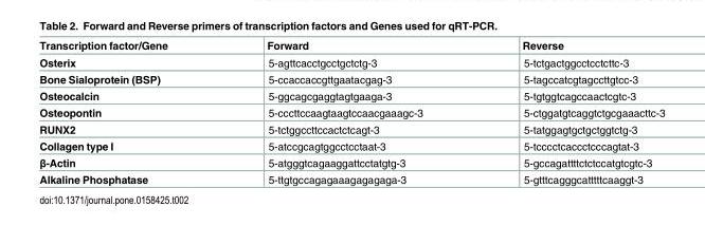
<table><thead><tr><td>Transcription factor/Gene</td><td>Forward</td><td>Reverse</td></tr></thead><tbody><tr><td>Osterix</td><td>5-agttcacctgcctgctctg-3</td><td>5-tctgactggcctcctcttc-3</td></tr><tr><td>Bone Sialoprotein (BSP)</td><td>5-ccaccaccgttgaatacgag-3</td><td>5-tagccatcgtagccttgtcc-3</td></tr><tr><td>Osteocalcin</td><td>5-ggcagcgaggtagtgaaga-3</td><td>5-tgtggtcagccaactcgtc-3</td></tr><tr><td>Osteopontin</td><td>5-cccttccaagtaagtccaacgaaagc-3</td><td>5-ctggatgtcaggtctgcgaaacttc-3</td></tr><tr><td>RUNX2</td><td>5-tctggccttccactctcagt-3</td><td>5-tatggagtgctgctggtctg-3</td></tr><tr><td>Collagen type I</td><td>5-atccgcagtggcctcctaat-3</td><td>5-tcccctcaccctcccagtat-3</td></tr><tr><td>β-Actin</td><td>5-atgggtcagaaggattcctatgtg-3</td><td>5-gccagattttctctccatgtcgtc-3</td></tr><tr><td>Alkaline Phosphatase</td><td>5-ttgtgccagagaaagagagaga-3</td><td>5-gtttcagggcatttttcaaggt-3</td></tr></tbody></table>